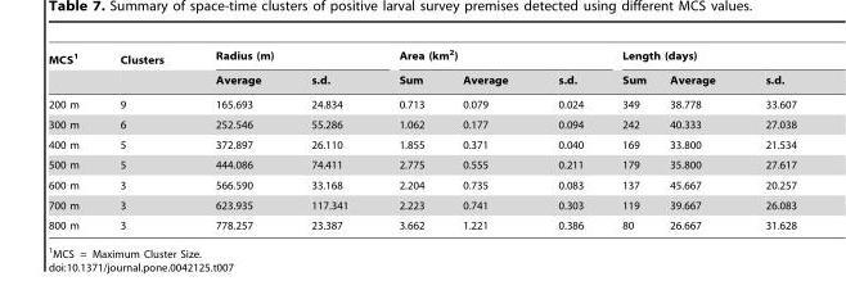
<table><thead><tr><td rowspan="2">MCS<sup>1</sup></td><td rowspan="2">Clusters</td><td colspan="2">Radius (m)</td><td colspan="3">Area (km<sup>2</sup>)</td><td colspan="3">Length (days)</td></tr><tr><td>Average</td><td>s.d.</td><td>Sum</td><td>Average</td><td>s.d.</td><td>Sum</td><td>Average</td><td>s.d.</td></tr></thead><tbody><tr><td>200 m</td><td>9</td><td>165.693</td><td>24.834</td><td>0.713</td><td>0.079</td><td>0.024</td><td>349</td><td>38.778</td><td>33.607</td></tr><tr><td>300 m</td><td>6</td><td>252.546</td><td>55.286</td><td>1.062</td><td>0.177</td><td>0.094</td><td>242</td><td>40.333</td><td>27.038</td></tr><tr><td>400 m</td><td>5</td><td>372.897</td><td>26.110</td><td>1.855</td><td>0.371</td><td>0.040</td><td>169</td><td>33.800</td><td>21.534</td></tr><tr><td>500 m</td><td>5</td><td>444.086</td><td>74.411</td><td>2.775</td><td>0.555</td><td>0.211</td><td>179</td><td>35.800</td><td>27.617</td></tr><tr><td>600 m</td><td>3</td><td>566.590</td><td>33.168</td><td>2.204</td><td>0.735</td><td>0.083</td><td>137</td><td>45.667</td><td>20.257</td></tr><tr><td>700 m</td><td>3</td><td>623.935</td><td>117.341</td><td>2.223</td><td>0.741</td><td>0.303</td><td>119</td><td>39.667</td><td>26.083</td></tr><tr><td>800 m</td><td>3</td><td>778.257</td><td>23.387</td><td>3.662</td><td>1.221</td><td>0.386</td><td>80</td><td>26.667</td><td>31.628</td></tr></tbody></table>